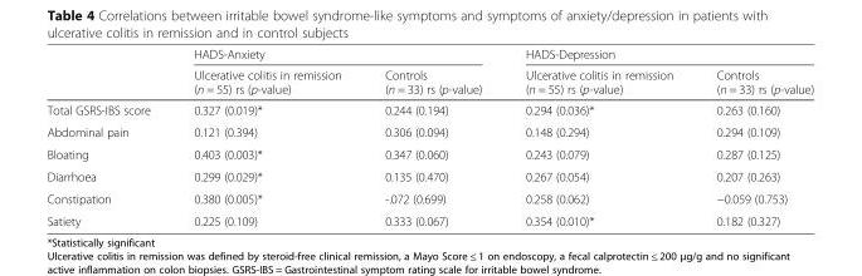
<table><thead><tr><td rowspan="2"></td><td colspan="2">HADS-Anxiety</td><td colspan="2">HADS-Depression</td></tr><tr><td>Ulcerative colitis in remission (n = 55) rs (p-value)</td><td>Controls (n = 33) rs (p-value)</td><td>Ulcerative colitis in remission (n = 55) rs (p-value)</td><td>Controls (n = 33) rs (p-value)</td></tr></thead><tbody><tr><td>Total GSRS-IBS score</td><td>0.327 (0.019)*</td><td>0.244 (0.194)</td><td>0.294 (0.036)*</td><td>0.263 (0.160)</td></tr><tr><td>Abdominal pain</td><td>0.121 (0.394)</td><td>0.306 (0.094)</td><td>0.148 (0.294)</td><td>0.294 (0.109)</td></tr><tr><td>Bloating</td><td>0.403 (0.003)*</td><td>0.347 (0.060)</td><td>0.243 (0.079)</td><td>0.287 (0.125)</td></tr><tr><td>Diarrhoea</td><td>0.299 (0.029)*</td><td>0.135 (0.470)</td><td>0.267 (0.054)</td><td>0.207 (0.263)</td></tr><tr><td>Constipation</td><td>0.380 (0.005)*</td><td>-.072 (0.699)</td><td>0.258 (0.062)</td><td>−0.059 (0.753)</td></tr><tr><td>Satiety</td><td>0.225 (0.109)</td><td>0.333 (0.067)</td><td>0.354 (0.010)*</td><td>0.182 (0.327)</td></tr></tbody></table>